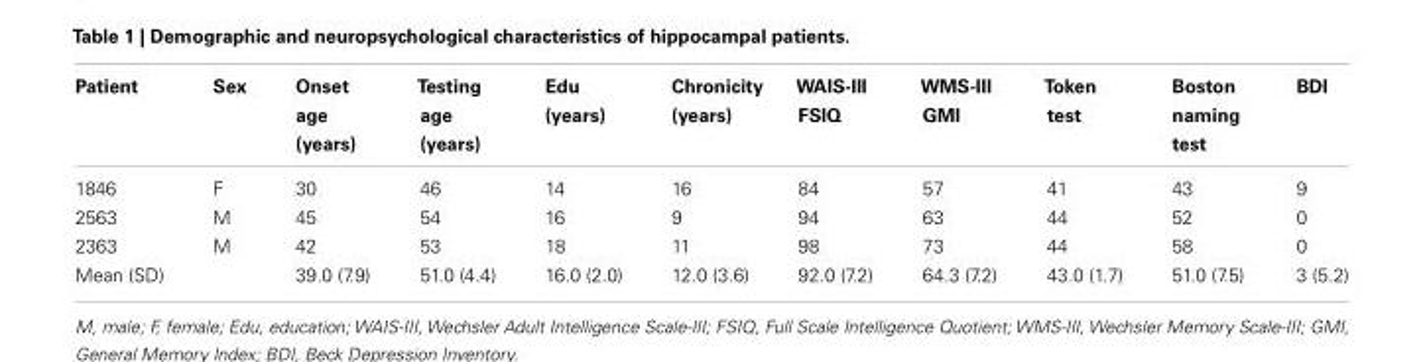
<table><thead><tr><td>Patient</td><td>Sex</td><td>Onset age (years)</td><td>Testing age (years)</td><td>Edu (years)</td><td>Chronicity (years)</td><td>WAIS-III FSIQ</td><td>WMS-III GMI</td><td>Token test</td><td>Boston naming test</td><td>BDI</td></tr></thead><tbody><tr><td>1846</td><td>F</td><td>30</td><td>46</td><td>14</td><td>16</td><td>84</td><td>57</td><td>41</td><td>43</td><td>9</td></tr><tr><td>2563</td><td>M</td><td>45</td><td>54</td><td>16</td><td>9</td><td>94</td><td>63</td><td>44</td><td>52</td><td>0</td></tr><tr><td>2363</td><td>M</td><td>42</td><td>53</td><td>18</td><td>11</td><td>98</td><td>73</td><td>44</td><td>58</td><td>0</td></tr><tr><td>Mean (SD)</td><td></td><td>39.0 (7.9)</td><td>51.0 (4.4)</td><td>16.0 (2.0)</td><td>12.0 (3.6)</td><td>92.0 (7.2)</td><td>64.3 (7.2)</td><td>43.0 (1.7)</td><td>51.0 (7.5)</td><td>3 (5.2)</td></tr></tbody></table>